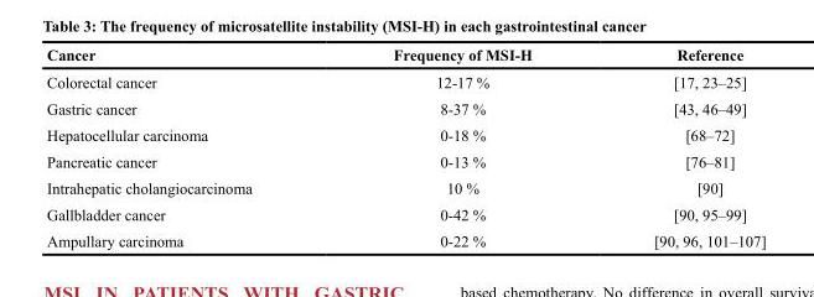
<table><thead><tr><td>Cancer</td><td>Frequency of MSI-H</td><td>Reference</td></tr></thead><tbody><tr><td>Colorectal cancer</td><td>12-17 %</td><td>[17, 23–25]</td></tr><tr><td>Gastric cancer</td><td>8-37 %</td><td>[43, 46–49]</td></tr><tr><td>Hepatocellular carcinoma</td><td>0-18 %</td><td>[68–72]</td></tr><tr><td>Pancreatic cancer</td><td>0-13 %</td><td>[76–81]</td></tr><tr><td>Intrahepatic cholangiocarcinoma</td><td>10 %</td><td>[90]</td></tr><tr><td>Gallbladder cancer</td><td>0-42 %</td><td>[90, 95–99]</td></tr><tr><td>Ampullary carcinoma</td><td>0-22 %</td><td>[90, 96, 101–107]</td></tr></tbody></table>